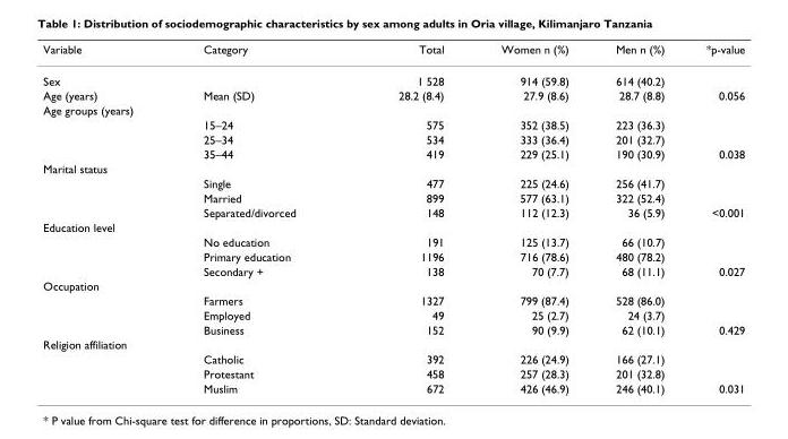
<table><thead><tr><td>Variable</td><td>Category</td><td>Total</td><td>Women n (%)</td><td>Men n (%)</td><td>*p-value</td></tr></thead><tbody><tr><td>Sex</td><td></td><td>1 528</td><td>914 (59.8)</td><td>614 (40.2)</td><td></td></tr><tr><td>Age (years)</td><td>Mean (SD)</td><td>28.2 (8.4)</td><td>27.9 (8.6)</td><td>28.7 (8.8)</td><td>0.056</td></tr><tr><td colspan="6">Age groups (years)</td></tr><tr><td></td><td>15–24</td><td>575</td><td>352 (38.5)</td><td>223 (36.3)</td><td></td></tr><tr><td></td><td>25–34</td><td>534</td><td>333 (36.4)</td><td>201 (32.7)</td><td></td></tr><tr><td></td><td>35–44</td><td>419</td><td>229 (25.1)</td><td>190 (30.9)</td><td>0.038</td></tr><tr><td colspan="6">Marital status</td></tr><tr><td></td><td>Single</td><td>477</td><td>225 (24.6)</td><td>256 (41.7)</td><td></td></tr><tr><td></td><td>Married</td><td>899</td><td>577 (63.1)</td><td>322 (52.4)</td><td></td></tr><tr><td></td><td>Separated/divorced</td><td>148</td><td>112 (12.3)</td><td>36 (5.9)</td><td>&lt;0.001</td></tr><tr><td colspan="6">Education level</td></tr><tr><td></td><td>No education</td><td>191</td><td>125 (13.7)</td><td>66 (10.7)</td><td></td></tr><tr><td></td><td>Primary education</td><td>1196</td><td>716 (78.6)</td><td>480 (78.2)</td><td></td></tr><tr><td></td><td>Secondary +</td><td>138</td><td>70 (7.7)</td><td>68 (11.1)</td><td>0.027</td></tr><tr><td colspan="6">Occupation</td></tr><tr><td></td><td>Farmers</td><td>1327</td><td>799 (87.4)</td><td>528 (86.0)</td><td></td></tr><tr><td></td><td>Employed</td><td>49</td><td>25 (2.7)</td><td>24 (3.7)</td><td></td></tr><tr><td></td><td>Business</td><td>152</td><td>90 (9.9)</td><td>62 (10.1)</td><td>0.429</td></tr><tr><td colspan="6">Religion affiliation</td></tr><tr><td></td><td>Catholic</td><td>392</td><td>226 (24.9)</td><td>166 (27.1)</td><td></td></tr><tr><td></td><td>Protestant</td><td>458</td><td>257 (28.3)</td><td>201 (32.8)</td><td></td></tr><tr><td></td><td>Muslim</td><td>672</td><td>426 (46.9)</td><td>246 (40.1)</td><td>0.031</td></tr></tbody></table>